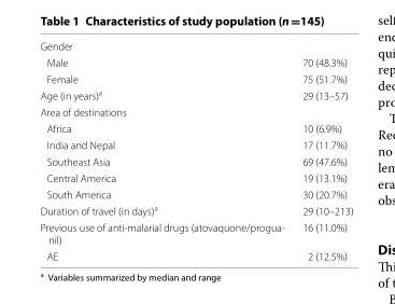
<table><tbody><tr><td colspan="2">Gender</td></tr><tr><td>Male</td><td>70 (48.3%)</td></tr><tr><td>Female</td><td>75 (51.7%)</td></tr><tr><td>Age (in years)<sup>a</sup></td><td>29 (13–57)</td></tr><tr><td colspan="2">Area of destinations</td></tr><tr><td>Africa</td><td>10 (6.9%)</td></tr><tr><td>India and Nepal</td><td>17 (11.7%)</td></tr><tr><td>Southeast Asia</td><td>69 (47.6%)</td></tr><tr><td>Central America</td><td>19 (13.1%)</td></tr><tr><td>South America</td><td>30 (20.7%)</td></tr><tr><td>Duration of travel (in days)<sup>a</sup></td><td>29 (10–213)</td></tr><tr><td>Previous use of anti‑malarial drugs (atovaquone/progua‑ nil)</td><td>16 (11.0%)</td></tr><tr><td>AE</td><td>2 (12.5%)</td></tr></tbody></table>